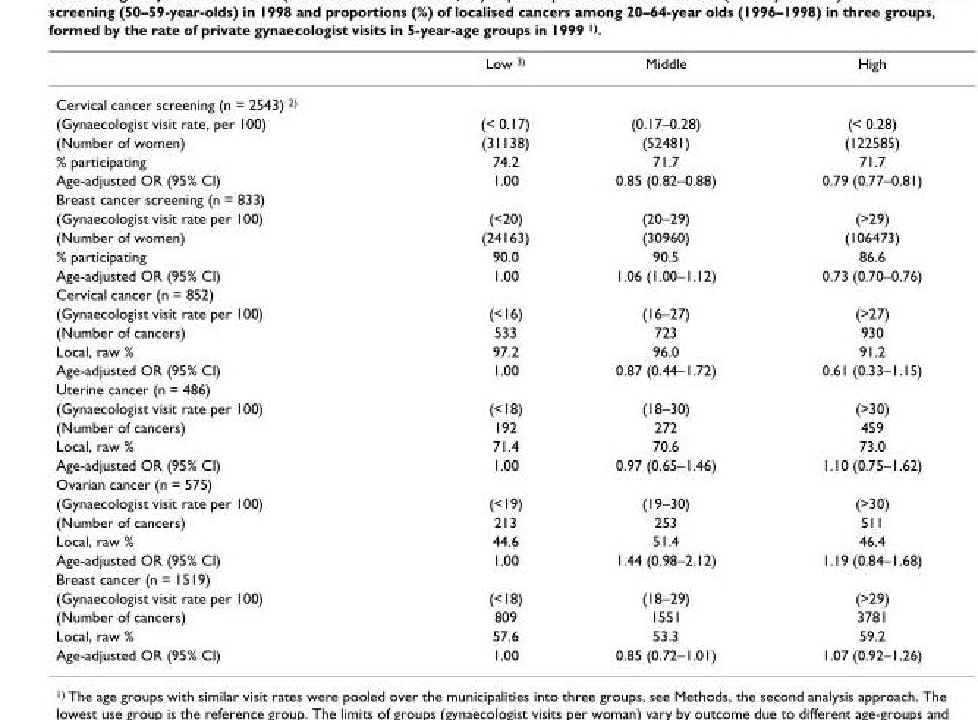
<table><thead><tr><td></td><td>Low 3)</td><td>Middle</td><td>High</td></tr></thead><tbody><tr><td colspan="4">Cervical cancer screening (n = 2543) 2)</td></tr><tr><td>(Gynaecologist visit rate, per 100)</td><td>(&lt; 0.17)</td><td>(0.17–0.28)</td><td>(&lt; 0.28)</td></tr><tr><td>(Number of women)</td><td>(31138)</td><td>(52481)</td><td>(122585)</td></tr><tr><td>% participating</td><td>74.2</td><td>71.7</td><td>71.7</td></tr><tr><td>Age-adjusted OR (95% CI)</td><td>1.00</td><td>0.85 (0.82–0.88)</td><td>0.79 (0.77–0.81)</td></tr><tr><td colspan="4">Breast cancer screening (n = 833)</td></tr><tr><td>(Gynaecologist visit rate per 100)</td><td>(&lt;20)</td><td>(20–29)</td><td>(&gt;29)</td></tr><tr><td>(Number of women)</td><td>(24163)</td><td>(30960)</td><td>(106473)</td></tr><tr><td>% participating</td><td>90.0</td><td>90.5</td><td>86.6</td></tr><tr><td>Age-adjusted OR (95% CI)</td><td>1.00</td><td>1.06 (1.00–1.12)</td><td>0.73 (0.70–0.76)</td></tr><tr><td colspan="4">Cervical cancer (n = 852)</td></tr><tr><td>(Gynaecologist visit rate per 100)</td><td>(&lt;16)</td><td>(16–27)</td><td>(&gt;27)</td></tr><tr><td>(Number of cancers)</td><td>533</td><td>723</td><td>930</td></tr><tr><td>Local, raw %</td><td>97.2</td><td>96.0</td><td>91.2</td></tr><tr><td>Age-adjusted OR (95% CI)</td><td>1.00</td><td>0.87 (0.44–1.72)</td><td>0.61 (0.33–1.15)</td></tr><tr><td colspan="4">Uterine cancer (n = 486)</td></tr><tr><td>(Gynaecologist visit rate per 100)</td><td>(&lt;18)</td><td>(18–30)</td><td>(&gt;30)</td></tr><tr><td>(Number of cancers)</td><td>192</td><td>272</td><td>459</td></tr><tr><td>Local, raw %</td><td>71.4</td><td>70.6</td><td>73.0</td></tr><tr><td>Age-adjusted OR (95% CI)</td><td>1.00</td><td>0.97 (0.65–1.46)</td><td>1.10 (0.75–1.62)</td></tr><tr><td colspan="4">Ovarian cancer (n = 575)</td></tr><tr><td>(Gynaecologist visit rate per 100)</td><td>(&lt;19)</td><td>(19–30)</td><td>(&gt;30)</td></tr><tr><td>(Number of cancers)</td><td>213</td><td>253</td><td>511</td></tr><tr><td>Local, raw %</td><td>44.6</td><td>51.4</td><td>46.4</td></tr><tr><td>Age-adjusted OR (95% CI)</td><td>1.00</td><td>1.44 (0.98–2.12)</td><td>1.19 (0.84–1.68)</td></tr><tr><td colspan="4">Breast cancer (n = 1519)</td></tr><tr><td>(Gynaecologist visit rate per 100)</td><td>(&lt;18)</td><td>(18–29)</td><td>(&gt;29)</td></tr><tr><td>(Number of cancers)</td><td>809</td><td>1551</td><td>3781</td></tr><tr><td>Local, raw %</td><td>57.6</td><td>53.3</td><td>59.2</td></tr><tr><td>Age-adjusted OR (95% CI)</td><td>1.00</td><td>0.85 (0.72–1.01)</td><td>1.07 (0.92–1.26)</td></tr></tbody></table>